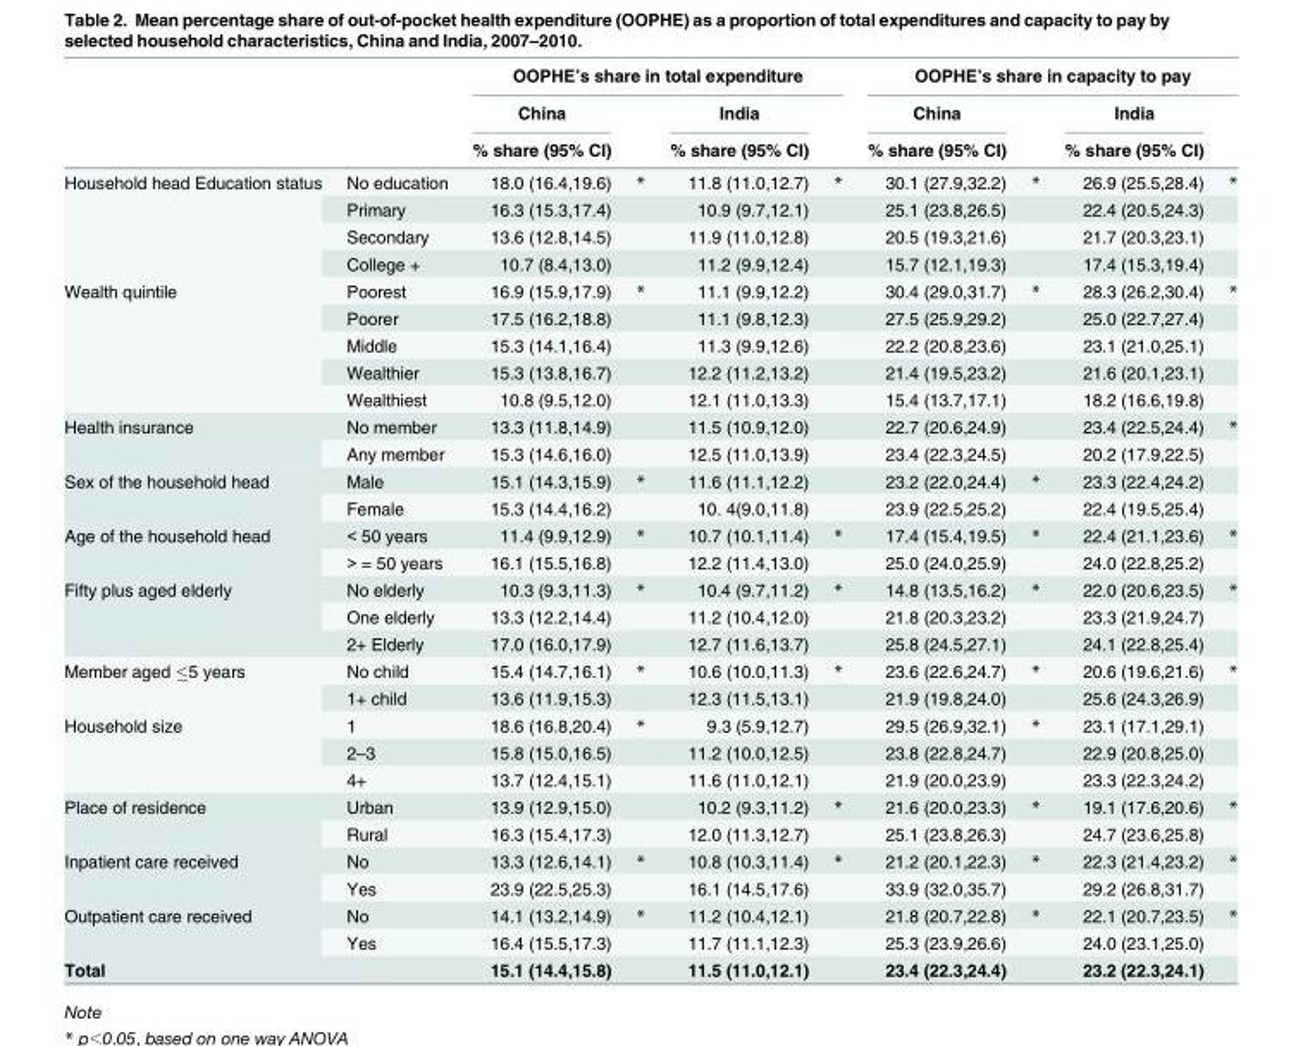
<table><thead><tr><td rowspan="3"></td><td rowspan="3"></td><td colspan="4">OOPHE’s share in total expenditure</td><td colspan="4">OOPHE’s share in capacity to pay</td></tr><tr><td rowspan="2">China % share (95% CI)</td><td rowspan="2"></td><td rowspan="2">India % share (95% CI)</td><td rowspan="2"></td><td rowspan="2">China % share (95% CI)</td><td rowspan="2"></td><td rowspan="2">India % share (95% CI)</td><td rowspan="2"></td></tr><tr></tr></thead><tbody><tr><td rowspan="4">Household head Education status</td><td>No education</td><td>18.0 (16.4,19.6)</td><td>*</td><td>11.8 (11.0,12.7)</td><td>*</td><td>30.1 (27.9,32.2)</td><td>*</td><td>26.9 (25.5,28.4)</td><td>*</td></tr><tr><td>Primary</td><td>16.3 (15.3,17.4)</td><td></td><td>10.9 (9.7,12.1)</td><td></td><td>25.1 (23.8,26.5)</td><td></td><td>22.4 (20.5,24.3)</td><td></td></tr><tr><td>Secondary</td><td>13.6 (12.8,14.5)</td><td></td><td>11.9 (11.0,12.8)</td><td></td><td>20.5 (19.3,21.6)</td><td></td><td>21.7 (20.3,23.1)</td><td></td></tr><tr><td>College +</td><td>10.7 (8.4,13.0)</td><td></td><td>11.2 (9.9,12.4)</td><td></td><td>15.7 (12.1,19.3)</td><td></td><td>17.4 (15.3,19.4)</td><td></td></tr><tr><td rowspan="5">Wealth quintile</td><td>Poorest</td><td>16.9 (15.9,17.9)</td><td>*</td><td>11.1 (9.9,12.2)</td><td></td><td>30.4 (29.0,31.7)</td><td>*</td><td>28.3 (26.2,30.4)</td><td>*</td></tr><tr><td>Poorer</td><td>17.5 (16.2,18.8)</td><td></td><td>11.1 (9.8,12.3)</td><td></td><td>27.5 (25.9,29.2)</td><td></td><td>25.0 (22.7,27.4)</td><td></td></tr><tr><td>Middle</td><td>15.3 (14.1,16.4)</td><td></td><td>11.3 (9.9,12.6)</td><td></td><td>22.2 (20.8,23.6)</td><td></td><td>23.1 (21.0,25.1)</td><td></td></tr><tr><td>Wealthier</td><td>15.3 (13.8,16.7)</td><td></td><td>12.2 (11.2,13.2)</td><td></td><td>21.4 (19.5,23.2)</td><td></td><td>21.6 (20.1,23.1)</td><td></td></tr><tr><td>Wealthiest</td><td>10.8 (9.5,12.0)</td><td></td><td>12.1 (11.0,13.3)</td><td></td><td>15.4 (13.7,17.1)</td><td></td><td>18.2 (16.6,19.8)</td><td></td></tr><tr><td rowspan="2">Health insurance</td><td>No member</td><td>13.3 (11.8,14.9)</td><td></td><td>11.5 (10.9,12.0)</td><td></td><td>22.7 (20.6,24.9)</td><td></td><td>23.4 (22.5,24.4)</td><td>*</td></tr><tr><td>Any member</td><td>15.3 (14.6,16.0)</td><td></td><td>12.5 (11.0,13.9)</td><td></td><td>23.4 (22.3,24.5)</td><td></td><td>20.2 (17.9,22.5)</td><td></td></tr><tr><td rowspan="2">Sex of the household head</td><td>Male</td><td>15.1 (14.3,15.9)</td><td>*</td><td>11.6 (11.1,12.2)</td><td></td><td>23.2 (22.0,24.4)</td><td>*</td><td>23.3 (22.4,24.2)</td><td></td></tr><tr><td>Female</td><td>15.3 (14.4,16.2)</td><td></td><td>10. 4(9.0,11.8)</td><td></td><td>23.9 (22.5,25.2)</td><td></td><td>22.4 (19.5,25.4)</td><td></td></tr><tr><td rowspan="2">Age of the household head</td><td>&lt; 50 years</td><td>11.4 (9.9,12.9)</td><td>*</td><td>10.7 (10.1,11.4)</td><td>*</td><td>17.4 (15.4,19.5)</td><td>*</td><td>22.4 (21.1,23.6)</td><td>*</td></tr><tr><td>&gt; = 50 years</td><td>16.1 (15.5,16.8)</td><td></td><td>12.2 (11.4,13.0)</td><td></td><td>25.0 (24.0,25.9)</td><td></td><td>24.0 (22.8,25.2)</td><td></td></tr><tr><td rowspan="3">Fifty plus aged elderly</td><td>No elderly</td><td>10.3 (9.3,11.3)</td><td>*</td><td>10.4 (9.7,11.2)</td><td>*</td><td>14.8 (13.5,16.2)</td><td>*</td><td>22.0 (20.6,23.5)</td><td>*</td></tr><tr><td>One elderly</td><td>13.3 (12.2,14.4)</td><td></td><td>11.2 (10.4,12.0)</td><td></td><td>21.8 (20.3,23.2)</td><td></td><td>23.3 (21.9,24.7)</td><td></td></tr><tr><td>2+ Elderly</td><td>17.0 (16.0,17.9)</td><td></td><td>12.7 (11.6,13.7)</td><td></td><td>25.8 (24.5,27.1)</td><td></td><td>24.1 (22.8,25.4)</td><td></td></tr><tr><td rowspan="2">Member aged ≤5 years</td><td>No child</td><td>15.4 (14.7,16.1)</td><td>*</td><td>10.6 (10.0,11.3)</td><td>*</td><td>23.6 (22.6,24.7)</td><td>*</td><td>20.6 (19.6,21.6)</td><td>*</td></tr><tr><td>1+ child</td><td>13.6 (11.9,15.3)</td><td></td><td>12.3 (11.5,13.1)</td><td></td><td>21.9 (19.8,24.0)</td><td></td><td>25.6 (24.3,26.9)</td><td></td></tr><tr><td rowspan="3">Household size</td><td>1</td><td>18.6 (16.8,20.4)</td><td>*</td><td>9.3 (5.9,12.7)</td><td></td><td>29.5 (26.9,32.1)</td><td>*</td><td>23.1 (17.1,29.1)</td><td></td></tr><tr><td>2–3</td><td>15.8 (15.0,16.5)</td><td></td><td>11.2 (10.0,12.5)</td><td></td><td>23.8 (22.8,24.7)</td><td></td><td>22.9 (20.8,25.0)</td><td></td></tr><tr><td>4+</td><td>13.7 (12.4,15.1)</td><td></td><td>11.6 (11.0,12.1)</td><td></td><td>21.9 (20.0,23.9)</td><td></td><td>23.3 (22.3,24.2)</td><td></td></tr><tr><td rowspan="2">Place of residence</td><td>Urban</td><td>13.9 (12.9,15.0)</td><td></td><td>10.2 (9.3,11.2)</td><td>*</td><td>21.6 (20.0,23.3)</td><td>*</td><td>19.1 (17.6,20.6)</td><td>*</td></tr><tr><td>Rural</td><td>16.3 (15.4,17.3)</td><td></td><td>12.0 (11.3,12.7)</td><td></td><td>25.1 (23.8,26.3)</td><td></td><td>24.7 (23.6,25.8)</td><td></td></tr><tr><td rowspan="2">Inpatient care received</td><td>No</td><td>13.3 (12.6,14.1)</td><td>*</td><td>10.8 (10.3,11.4)</td><td>*</td><td>21.2 (20.1,22.3)</td><td>*</td><td>22.3 (21.4,23.2)</td><td>*</td></tr><tr><td>Yes</td><td>23.9 (22.5,25.3)</td><td></td><td>16.1 (14.5,17.6)</td><td></td><td>33.9 (32.0,35.7)</td><td></td><td>29.2 (26.8,31.7)</td><td></td></tr><tr><td rowspan="2">Outpatient care received</td><td>No</td><td>14.1 (13.2,14.9)</td><td>*</td><td>11.2 (10.4,12.1)</td><td></td><td>21.8 (20.7,22.8)</td><td>*</td><td>22.1 (20.7,23.5)</td><td>*</td></tr><tr><td>Yes</td><td>16.4 (15.5,17.3)</td><td></td><td>11.7 (11.1,12.3)</td><td></td><td>25.3 (23.9,26.6)</td><td></td><td>24.0 (23.1,25.0)</td><td></td></tr><tr><td>Total</td><td></td><td>15.1 (14.4,15.8)</td><td></td><td>11.5 (11.0,12.1)</td><td></td><td>23.4 (22.3,24.4)</td><td></td><td>23.2 (22.3,24.1)</td><td></td></tr></tbody></table>